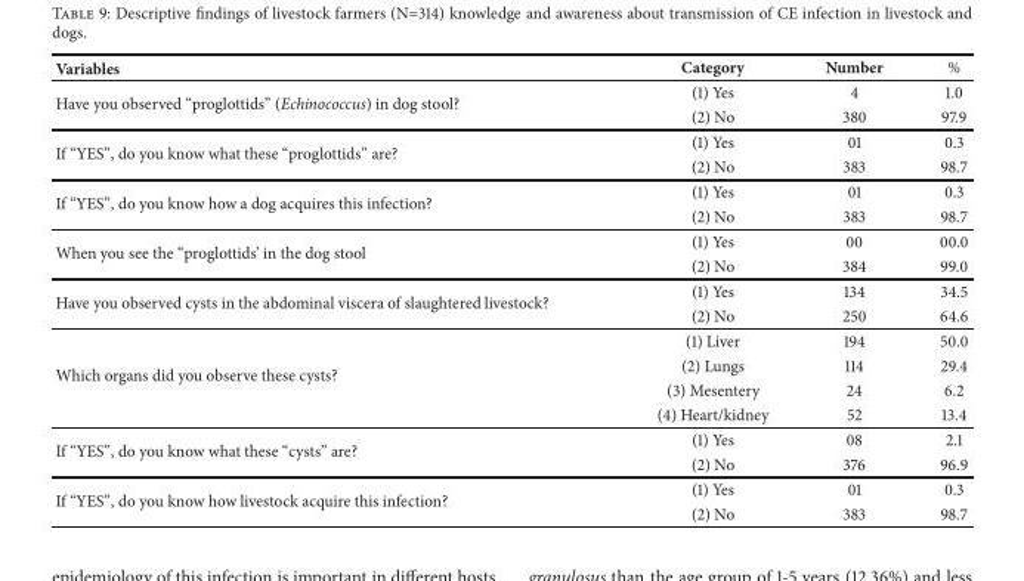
<table><thead><tr><td>Variables</td><td>Category</td><td>Number</td><td>%</td></tr></thead><tbody><tr><td rowspan="2">Have you observed “proglottids” (Echinococcus) in dog stool?</td><td>(1) Yes</td><td>4</td><td>1.0</td></tr><tr><td>(2) No</td><td>380</td><td>97.9</td></tr><tr><td rowspan="2">If “YES”, do you know what these “proglottids” are?</td><td>(1) Yes</td><td>01</td><td>0.3</td></tr><tr><td>(2) No</td><td>383</td><td>98.7</td></tr><tr><td rowspan="2">If “YES”, do you know how a dog acquires this infection?</td><td>(1) Yes</td><td>01</td><td>0.3</td></tr><tr><td>(2) No</td><td>383</td><td>98.7</td></tr><tr><td rowspan="2">When you see the “proglottids’ in the dog stool</td><td>(1) Yes</td><td>00</td><td>00.0</td></tr><tr><td>(2) No</td><td>384</td><td>99.0</td></tr><tr><td rowspan="2">Have you observed cysts in the abdominal viscera of slaughtered livestock?</td><td>(1) Yes</td><td>134</td><td>34.5</td></tr><tr><td>(2) No</td><td>250</td><td>64.6</td></tr><tr><td rowspan="4">Which organs did you observe these cysts?</td><td>(1) Liver</td><td>194</td><td>50.0</td></tr><tr><td>(2) Lungs</td><td>114</td><td>29.4</td></tr><tr><td>(3) Mesentery</td><td>24</td><td>6.2</td></tr><tr><td>(4) Heart/kidney</td><td>52</td><td>13.4</td></tr><tr><td rowspan="2">If “YES”, do you know what these “cysts” are?</td><td>(1) Yes</td><td>08</td><td>2.1</td></tr><tr><td>(2) No</td><td>376</td><td>96.9</td></tr><tr><td rowspan="2">If “YES”, do you know how livestock acquire this infection?</td><td>(1) Yes</td><td>01</td><td>0.3</td></tr><tr><td>(2) No</td><td>383</td><td>98.7</td></tr></tbody></table>